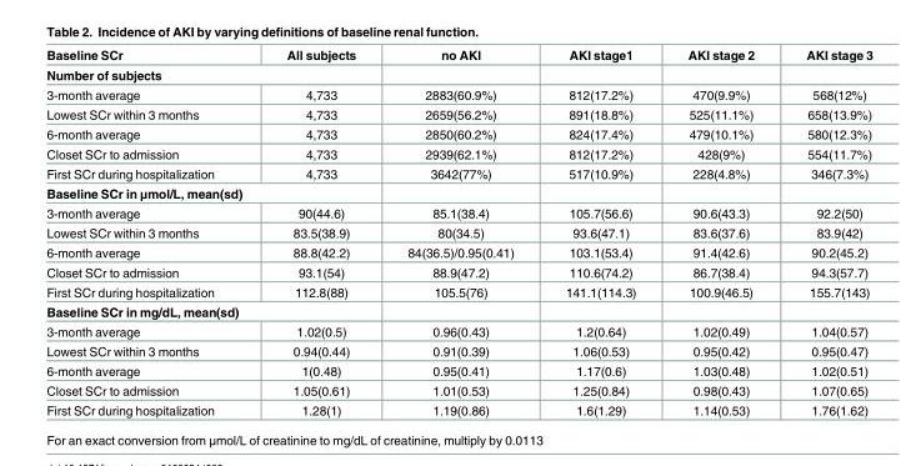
<table><thead><tr><td>Baseline SCr</td><td>All subjects</td><td>no AKI</td><td>AKI stage1</td><td>AKI stage 2</td><td>AKI stage 3</td></tr></thead><tbody><tr><td colspan="6">Number of subjects</td></tr><tr><td>3-month average</td><td>4,733</td><td>2883(60.9%)</td><td>812(17.2%)</td><td>470(9.9%)</td><td>568(12%)</td></tr><tr><td>Lowest SCr within 3 months</td><td>4,733</td><td>2659(56.2%)</td><td>891(18.8%)</td><td>525(11.1%)</td><td>658(13.9%)</td></tr><tr><td>6-month average</td><td>4,733</td><td>2850(60.2%)</td><td>824(17.4%)</td><td>479(10.1%)</td><td>580(12.3%)</td></tr><tr><td>Closet SCr to admission</td><td>4,733</td><td>2939(62.1%)</td><td>812(17.2%)</td><td>428(9%)</td><td>554(11.7%)</td></tr><tr><td>First SCr during hospitalization</td><td>4,733</td><td>3642(77%)</td><td>517(10.9%)</td><td>228(4.8%)</td><td>346(7.3%)</td></tr><tr><td colspan="6">Baseline SCr in μmol/L, mean(sd)</td></tr><tr><td>3-month average</td><td>90(44.6)</td><td>85.1(38.4)</td><td>105.7(56.6)</td><td>90.6(43.3)</td><td>92.2(50)</td></tr><tr><td>Lowest SCr within 3 months</td><td>83.5(38.9)</td><td>80(34.5)</td><td>93.6(47.1)</td><td>83.6(37.6)</td><td>83.9(42)</td></tr><tr><td>6-month average</td><td>88.8(42.2)</td><td>84(36.5)/0.95(0.41)</td><td>103.1(53.4)</td><td>91.4(42.6)</td><td>90.2(45.2)</td></tr><tr><td>Closet SCr to admission</td><td>93.1(54)</td><td>88.9(47.2)</td><td>110.6(74.2)</td><td>86.7(38.4)</td><td>94.3(57.7)</td></tr><tr><td>First SCr during hospitalization</td><td>112.8(88)</td><td>105.5(76)</td><td>141.1(114.3)</td><td>100.9(46.5)</td><td>155.7(143)</td></tr><tr><td colspan="6">Baseline SCr in mg/dL, mean(sd)</td></tr><tr><td>3-month average</td><td>1.02(0.5)</td><td>0.96(0.43)</td><td>1.2(0.64)</td><td>1.02(0.49)</td><td>1.04(0.57)</td></tr><tr><td>Lowest SCr within 3 months</td><td>0.94(0.44)</td><td>0.91(0.39)</td><td>1.06(0.53)</td><td>0.95(0.42)</td><td>0.95(0.47)</td></tr><tr><td>6-month average</td><td>1(0.48)</td><td>0.95(0.41)</td><td>1.17(0.6)</td><td>1.03(0.48)</td><td>1.02(0.51)</td></tr><tr><td>Closet SCr to admission</td><td>1.05(0.61)</td><td>1.01(0.53)</td><td>1.25(0.84)</td><td>0.98(0.43)</td><td>1.07(0.65)</td></tr><tr><td>First SCr during hospitalization</td><td>1.28(1)</td><td>1.19(0.86)</td><td>1.6(1.29)</td><td>1.14(0.53)</td><td>1.76(1.62)</td></tr></tbody></table>